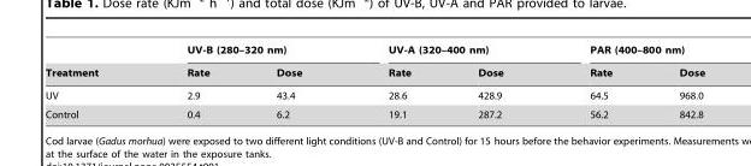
<table><thead><tr><td rowspan="2">Treatment</td><td colspan="2">UV-B (280–320 nm)</td><td colspan="2">UV-A (320–400 nm)</td><td colspan="2">PAR (400–800 nm)</td></tr><tr><td>Rate</td><td>Dose</td><td>Rate</td><td>Dose</td><td>Rate</td><td>Dose</td></tr></thead><tbody><tr><td>UV</td><td>2.9</td><td>43.4</td><td>28.6</td><td>428.9</td><td>64.5</td><td>968.0</td></tr><tr><td>Control</td><td>0.4</td><td>6.2</td><td>19.1</td><td>287.2</td><td>56.2</td><td>842.8</td></tr></tbody></table>